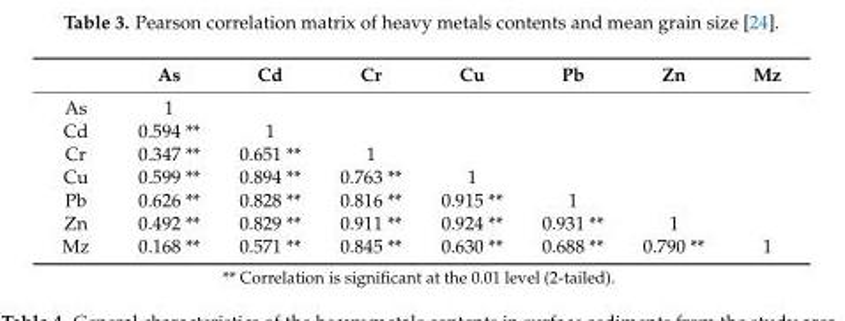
<table><thead><tr><td></td><td>As</td><td>Cd</td><td>Cr</td><td>Cu</td><td>Pb</td><td>Zn</td><td>Mz</td></tr></thead><tbody><tr><td>As</td><td>1</td><td></td><td></td><td></td><td></td><td></td><td></td></tr><tr><td>Cd</td><td>0.594 **</td><td>1</td><td></td><td></td><td></td><td></td><td></td></tr><tr><td>Cr</td><td>0.347 **</td><td>0.651 **</td><td>1</td><td></td><td></td><td></td><td></td></tr><tr><td>Cu</td><td>0.599 **</td><td>0.894 **</td><td>0.763 **</td><td>1</td><td></td><td></td><td></td></tr><tr><td>Pb</td><td>0.626 **</td><td>0.828 **</td><td>0.816 **</td><td>0.915 **</td><td>1</td><td></td><td></td></tr><tr><td>Zn</td><td>0.492 **</td><td>0.829 **</td><td>0.911 **</td><td>0.924 **</td><td>0.931 **</td><td>1</td><td></td></tr><tr><td>Mz</td><td>0.168 **</td><td>0.571 **</td><td>0.845 **</td><td>0.630 **</td><td>0.688 **</td><td>0.790 **</td><td>1</td></tr></tbody></table>